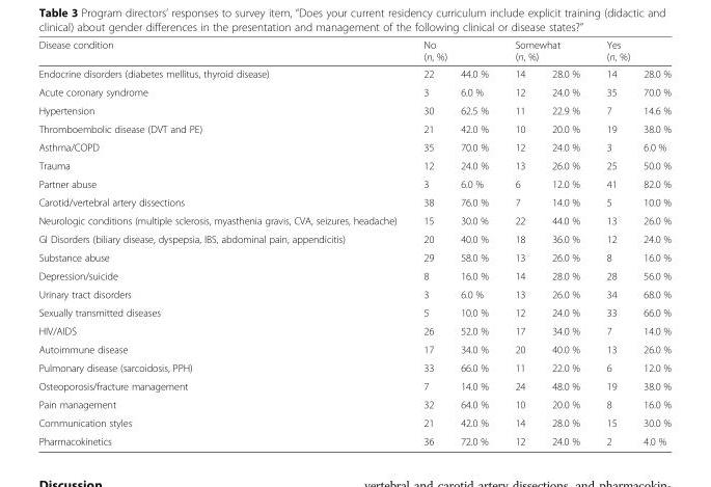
<table><thead><tr><td rowspan="2">Disease condition Endocrine disorders (diabetes mellitus, thyroid disease)</td><td colspan="2">No (n, %)</td><td colspan="2">Somewhat (n, %)</td><td colspan="2">Yes (n, %)</td></tr><tr><td>22</td><td>44.0 %</td><td>14</td><td>28.0 %</td><td>14</td><td>28.0 %</td></tr></thead><tbody><tr><td>Acute coronary syndrome</td><td>3</td><td>6.0 %</td><td>12</td><td>24.0 %</td><td>35</td><td>70.0 %</td></tr><tr><td>Hypertension</td><td>30</td><td>62.5 %</td><td>11</td><td>22.9 %</td><td>7</td><td>14.6 %</td></tr><tr><td>Thromboembolic disease (DVT and PE)</td><td>21</td><td>42.0 %</td><td>10</td><td>20.0 %</td><td>19</td><td>38.0 %</td></tr><tr><td>Asthma/COPD</td><td>35</td><td>70.0 %</td><td>12</td><td>24.0 %</td><td>3</td><td>6.0 %</td></tr><tr><td>Trauma</td><td>12</td><td>24.0 %</td><td>13</td><td>26.0 %</td><td>25</td><td>50.0 %</td></tr><tr><td>Partner abuse</td><td>3</td><td>6.0 %</td><td>6</td><td>12.0 %</td><td>41</td><td>82.0 %</td></tr><tr><td>Carotid/vertebral artery dissections</td><td>38</td><td>76.0 %</td><td>7</td><td>14.0 %</td><td>5</td><td>10.0 %</td></tr><tr><td>Neurologic conditions (multiple sclerosis, myasthenia gravis, CVA, seizures, headache)</td><td>15</td><td>30.0 %</td><td>22</td><td>44.0 %</td><td>13</td><td>26.0 %</td></tr><tr><td>GI Disorders (biliary disease, dyspepsia, IBS, abdominal pain, appendicitis)</td><td>20</td><td>40.0 %</td><td>18</td><td>36.0 %</td><td>12</td><td>24.0 %</td></tr><tr><td>Substance abuse</td><td>29</td><td>58.0 %</td><td>13</td><td>26.0 %</td><td>8</td><td>16.0 %</td></tr><tr><td>Depression/suicide</td><td>8</td><td>16.0 %</td><td>14</td><td>28.0 %</td><td>28</td><td>56.0 %</td></tr><tr><td>Urinary tract disorders</td><td>3</td><td>6.0 %</td><td>13</td><td>26.0 %</td><td>34</td><td>68.0 %</td></tr><tr><td>Sexually transmitted diseases</td><td>5</td><td>10.0 %</td><td>12</td><td>24.0 %</td><td>33</td><td>66.0 %</td></tr><tr><td>HIV/AIDS</td><td>26</td><td>52.0 %</td><td>17</td><td>34.0 %</td><td>7</td><td>14.0 %</td></tr><tr><td>Autoimmune disease</td><td>17</td><td>34.0 %</td><td>20</td><td>40.0 %</td><td>13</td><td>26.0 %</td></tr><tr><td>Pulmonary disease (sarcoidosis, PPH)</td><td>33</td><td>66.0 %</td><td>11</td><td>22.0 %</td><td>6</td><td>12.0 %</td></tr><tr><td>Osteoporosis/fracture management</td><td>7</td><td>14.0 %</td><td>24</td><td>48.0 %</td><td>19</td><td>38.0 %</td></tr><tr><td>Pain management</td><td>32</td><td>64.0 %</td><td>10</td><td>20.0 %</td><td>8</td><td>16.0 %</td></tr><tr><td>Communication styles</td><td>21</td><td>42.0 %</td><td>14</td><td>28.0 %</td><td>15</td><td>30.0 %</td></tr><tr><td>Pharmacokinetics</td><td>36</td><td>72.0 %</td><td>12</td><td>24.0 %</td><td>2</td><td>4.0 %</td></tr></tbody></table>